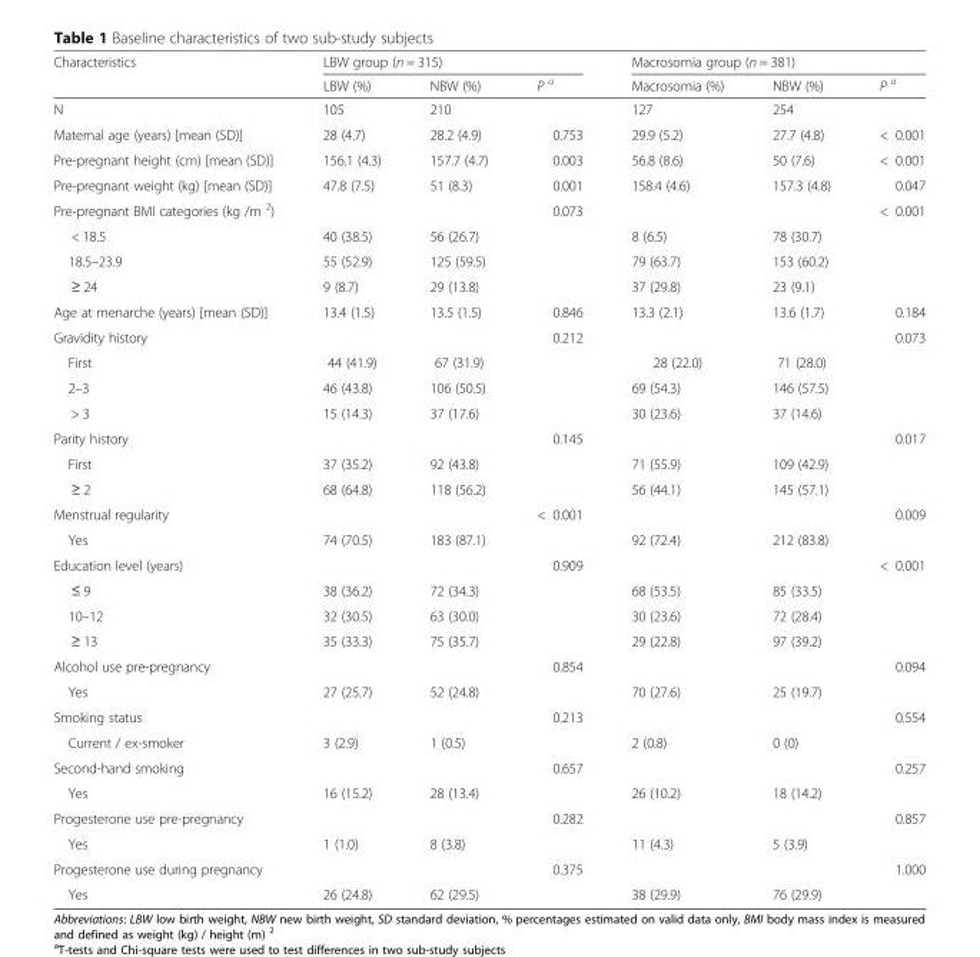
<table><thead><tr><td rowspan="2">Characteristics</td><td colspan="3">LBW group (n = 315)</td><td colspan="3">Macrosomia group (n = 381)</td></tr><tr><td>LBW (%)</td><td>NBW (%)</td><td>P <sup>a</sup></td><td>Macrosomia (%)</td><td>NBW (%)</td><td>P <sup>a</sup></td></tr></thead><tbody><tr><td>N</td><td>105</td><td>210</td><td></td><td>127</td><td>254</td><td></td></tr><tr><td>Maternal age (years) [mean (SD)]</td><td>28 (4.7)</td><td>28.2 (4.9)</td><td>0.753</td><td>29.9 (5.2)</td><td>27.7 (4.8)</td><td>&lt; 0.001</td></tr><tr><td>Pre-pregnant height (cm) [mean (SD)]</td><td>156.1 (4.3)</td><td>157.7 (4.7)</td><td>0.003</td><td>56.8 (8.6)</td><td>50 (7.6)</td><td>&lt; 0.001</td></tr><tr><td>Pre-pregnant weight (kg) [mean (SD)]</td><td>47.8 (7.5)</td><td>51 (8.3)</td><td>0.001</td><td>158.4 (4.6)</td><td>157.3 (4.8)</td><td>0.047</td></tr><tr><td>Pre-pregnant BMI categories (kg /m <sup>2</sup>)</td><td></td><td></td><td>0.073</td><td></td><td></td><td>&lt; 0.001</td></tr><tr><td>&lt; 18.5</td><td>40 (38.5)</td><td>56 (26.7)</td><td></td><td>8 (6.5)</td><td>78 (30.7)</td><td></td></tr><tr><td>18.5–23.9</td><td>55 (52.9)</td><td>125 (59.5)</td><td></td><td>79 (63.7)</td><td>153 (60.2)</td><td></td></tr><tr><td>≥ 24</td><td>9 (8.7)</td><td>29 (13.8)</td><td></td><td>37 (29.8)</td><td>23 (9.1)</td><td></td></tr><tr><td>Age at menarche (years) [mean (SD)]</td><td>13.4 (1.5)</td><td>13.5 (1.5)</td><td>0.846</td><td>13.3 (2.1)</td><td>13.6 (1.7)</td><td>0.184</td></tr><tr><td>Gravidity history</td><td></td><td></td><td>0.212</td><td></td><td></td><td>0.073</td></tr><tr><td>First</td><td>44 (41.9)</td><td>67 (31.9)</td><td></td><td>28 (22.0)</td><td>71 (28.0)</td><td></td></tr><tr><td>2–3</td><td>46 (43.8)</td><td>106 (50.5)</td><td></td><td>69 (54.3)</td><td>146 (57.5)</td><td></td></tr><tr><td>&gt; 3</td><td>15 (14.3)</td><td>37 (17.6)</td><td></td><td>30 (23.6)</td><td>37 (14.6)</td><td></td></tr><tr><td>Parity history</td><td></td><td></td><td>0.145</td><td></td><td></td><td>0.017</td></tr><tr><td>First</td><td>37 (35.2)</td><td>92 (43.8)</td><td></td><td>71 (55.9)</td><td>109 (42.9)</td><td></td></tr><tr><td>≥ 2</td><td>68 (64.8)</td><td>118 (56.2)</td><td></td><td>56 (44.1)</td><td>145 (57.1)</td><td></td></tr><tr><td>Menstrual regularity</td><td></td><td></td><td>&lt; 0.001</td><td></td><td></td><td>0.009</td></tr><tr><td>Yes</td><td>74 (70.5)</td><td>183 (87.1)</td><td></td><td>92 (72.4)</td><td>212 (83.8)</td><td></td></tr><tr><td>Education level (years)</td><td></td><td></td><td>0.909</td><td></td><td></td><td>&lt; 0.001</td></tr><tr><td>≤ 9</td><td>38 (36.2)</td><td>72 (34.3)</td><td></td><td>68 (53.5)</td><td>85 (33.5)</td><td></td></tr><tr><td>10–12</td><td>32 (30.5)</td><td>63 (30.0)</td><td></td><td>30 (23.6)</td><td>72 (28.4)</td><td></td></tr><tr><td>≥ 13</td><td>35 (33.3)</td><td>75 (35.7)</td><td></td><td>29 (22.8)</td><td>97 (39.2)</td><td></td></tr><tr><td>Alcohol use pre-pregnancy</td><td></td><td></td><td>0.854</td><td></td><td></td><td>0.094</td></tr><tr><td>Yes</td><td>27 (25.7)</td><td>52 (24.8)</td><td></td><td>70 (27.6)</td><td>25 (19.7)</td><td></td></tr><tr><td>Smoking status</td><td></td><td></td><td>0.213</td><td></td><td></td><td>0.554</td></tr><tr><td>Current / ex-smoker</td><td>3 (2.9)</td><td>1 (0.5)</td><td></td><td>2 (0.8)</td><td>0 (0)</td><td></td></tr><tr><td>Second-hand smoking</td><td></td><td></td><td>0.657</td><td></td><td></td><td>0.257</td></tr><tr><td>Yes</td><td>16 (15.2)</td><td>28 (13.4)</td><td></td><td>26 (10.2)</td><td>18 (14.2)</td><td></td></tr><tr><td>Progesterone use pre-pregnancy</td><td></td><td></td><td>0.282</td><td></td><td></td><td>0.857</td></tr><tr><td>Yes</td><td>1 (1.0)</td><td>8 (3.8)</td><td></td><td>11 (4.3)</td><td>5 (3.9)</td><td></td></tr><tr><td>Progesterone use during pregnancy</td><td></td><td></td><td>0.375</td><td></td><td></td><td>1.000</td></tr><tr><td>Yes</td><td>26 (24.8)</td><td>62 (29.5)</td><td></td><td>38 (29.9)</td><td>76 (29.9)</td><td></td></tr></tbody></table>